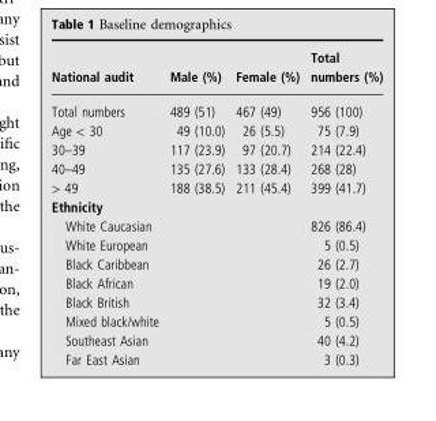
<table><thead><tr><td>National audit</td><td>Male (%)</td><td>Female (%)</td><td>Total numbers (%)</td></tr></thead><tbody><tr><td>Total numbers</td><td>489 (51)</td><td>467 (49)</td><td>956 (100)</td></tr><tr><td>Age &lt; 30</td><td>49 (10.0)</td><td>26 (5.5)</td><td>75 (7.9)</td></tr><tr><td>30–39</td><td>117 (23.9)</td><td>97 (20.7)</td><td>214 (22.4)</td></tr><tr><td>40–49</td><td>135 (27.6)</td><td>133 (28.4)</td><td>268 (28)</td></tr><tr><td>&gt; 49</td><td>188 (38.5)</td><td>211 (45.4)</td><td>399 (41.7)</td></tr><tr><td colspan="4">Ethnicity</td></tr><tr><td>White Caucasian</td><td></td><td></td><td>826 (86.4)</td></tr><tr><td>White European</td><td></td><td></td><td>5 (0.5)</td></tr><tr><td>Black Caribbean</td><td></td><td></td><td>26 (2.7)</td></tr><tr><td>Black African</td><td></td><td></td><td>19 (2.0)</td></tr><tr><td>Black British</td><td></td><td></td><td>32 (3.4)</td></tr><tr><td>Mixed black/white</td><td></td><td></td><td>5 (0.5)</td></tr><tr><td>Southeast Asian</td><td></td><td></td><td>40 (4.2)</td></tr><tr><td>Far East Asian</td><td></td><td></td><td>3 (0.3)</td></tr></tbody></table>